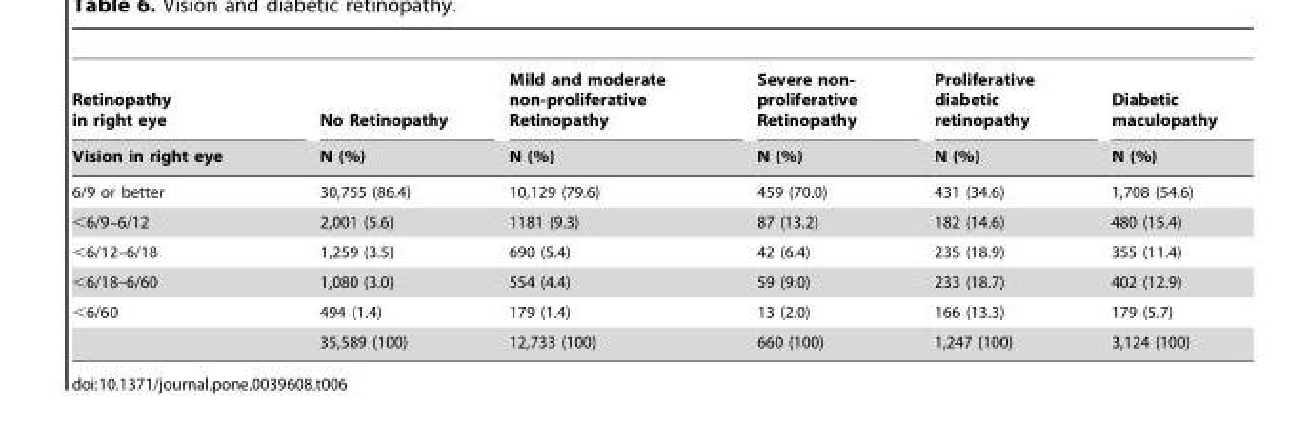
<table><thead><tr><td rowspan="2">Retinopathy in right eye Vision in right eye</td><td rowspan="2">No Retinopathy N (%)</td><td rowspan="2">Mild and moderate non-proliferative Retinopathy N (%)</td><td rowspan="2">Severe non- proliferative Retinopathy N (%)</td><td rowspan="2">Proliferative diabetic retinopathy N (%)</td><td rowspan="2">Diabetic maculopathy N (%)</td></tr><tr></tr></thead><tbody><tr><td>6/9 or better</td><td>30,755 (86.4)</td><td>10,129 (79.6)</td><td>459 (70.0)</td><td>431 (34.6)</td><td>1,708 (54.6)</td></tr><tr><td>&lt;6/9–6/12</td><td>2,001 (5.6)</td><td>1181 (9.3)</td><td>87 (13.2)</td><td>182 (14.6)</td><td>480 (15.4)</td></tr><tr><td>&lt;6/12–6/18</td><td>1,259 (3.5)</td><td>690 (5.4)</td><td>42 (6.4)</td><td>235 (18.9)</td><td>355 (11.4)</td></tr><tr><td>&lt;6/18–6/60</td><td>1,080 (3.0)</td><td>554 (4.4)</td><td>59 (9.0)</td><td>233 (18.7)</td><td>402 (12.9)</td></tr><tr><td rowspan="2">&lt;6/60</td><td>494 (1.4)</td><td>179 (1.4)</td><td>13 (2.0)</td><td>166 (13.3)</td><td>179 (5.7)</td></tr><tr><td>35,589 (100)</td><td>12,733 (100)</td><td>660 (100)</td><td>1,247 (100)</td><td>3,124 (100)</td></tr></tbody></table>